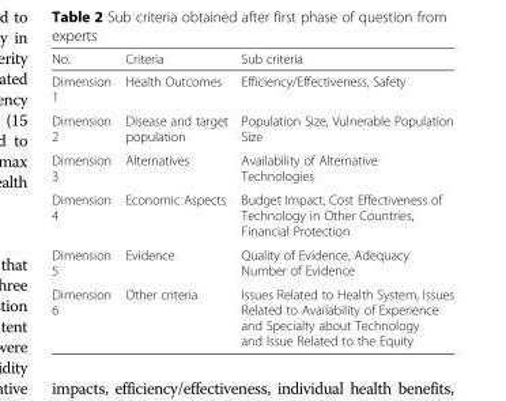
<table><thead><tr><td>No.</td><td>Criteria</td><td>Sub criteria</td></tr></thead><tbody><tr><td>Dimension 1</td><td>Health Outcomes</td><td>Efficiency/Effectiveness, Safety</td></tr><tr><td>Dimension 2</td><td>Disease and target population</td><td>Population Size, Vulnerable Population Size</td></tr><tr><td>Dimension 3</td><td>Alternatives</td><td>Availability of Alternative Technologies</td></tr><tr><td>Dimension 4</td><td>Economic Aspects</td><td>Budget Impact, Cost Effectiveness of Technology in Other Countries, Financial Protection</td></tr><tr><td>Dimension 5</td><td>Evidence</td><td>Quality of Evidence, Adequacy Number of Evidence</td></tr><tr><td>Dimension 6</td><td>Other criteria</td><td>Issues Related to Health System, Issues Related to Availability of Experience and Specialty about Technology and Issue Related to the Equity</td></tr></tbody></table>